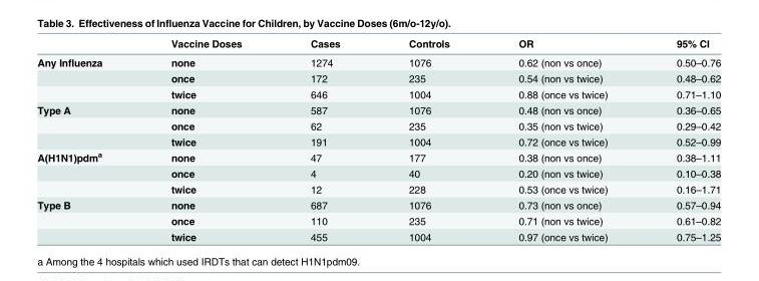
<table><thead><tr><td></td><td>Vaccine Doses</td><td>Cases</td><td>Controls</td><td>OR</td><td>95% CI</td></tr></thead><tbody><tr><td rowspan="3">Any Influenza</td><td>none</td><td>1274</td><td>1076</td><td>0.62 (non vs once)</td><td>0.50–0.76</td></tr><tr><td>once</td><td>172</td><td>235</td><td>0.54 (non vs twice)</td><td>0.48–0.62</td></tr><tr><td>twice</td><td>646</td><td>1004</td><td>0.88 (once vs twice)</td><td>0.71–1.10</td></tr><tr><td rowspan="3">Type A</td><td>none</td><td>587</td><td>1076</td><td>0.48 (non vs once)</td><td>0.36–0.65</td></tr><tr><td>once</td><td>62</td><td>235</td><td>0.35 (non vs twice)</td><td>0.29–0.42</td></tr><tr><td>twice</td><td>191</td><td>1004</td><td>0.72 (once vs twice)</td><td>0.52–0.99</td></tr><tr><td rowspan="3">A(H1N1)pdm<sup>a</sup></td><td>none</td><td>47</td><td>177</td><td>0.38 (non vs once)</td><td>0.38–1.11</td></tr><tr><td>once</td><td>4</td><td>40</td><td>0.20 (non vs twice)</td><td>0.10–0.38</td></tr><tr><td>twice</td><td>12</td><td>228</td><td>0.53 (once vs twice)</td><td>0.16–1.71</td></tr><tr><td rowspan="3">Type B</td><td>none</td><td>687</td><td>1076</td><td>0.73 (non vs once)</td><td>0.57–0.94</td></tr><tr><td>once</td><td>110</td><td>235</td><td>0.71 (non vs twice)</td><td>0.61–0.82</td></tr><tr><td>twice</td><td>455</td><td>1004</td><td>0.97 (once vs twice)</td><td>0.75–1.25</td></tr></tbody></table>